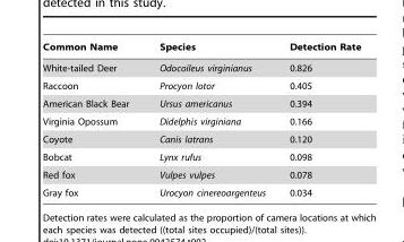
<table><thead><tr><td>Common Name</td><td>Species</td><td>Detection Rate</td></tr></thead><tbody><tr><td>White-tailed Deer</td><td>Odocoileus virginianus</td><td>0.826</td></tr><tr><td>Raccoon</td><td>Procyon lotor</td><td>0.405</td></tr><tr><td>American Black Bear</td><td>Ursus americanus</td><td>0.394</td></tr><tr><td>Virginia Opossum</td><td>Didelphis virginiana</td><td>0.166</td></tr><tr><td>Coyote</td><td>Canis latrans</td><td>0.120</td></tr><tr><td>Bobcat</td><td>Lynx rufus</td><td>0.098</td></tr><tr><td>Red fox</td><td>Vulpes vulpes</td><td>0.078</td></tr><tr><td>Gray fox</td><td>Urocyon cinereoargenteus</td><td>0.034</td></tr></tbody></table>